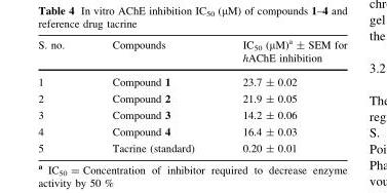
<table><thead><tr><td>S. no.</td><td>Compounds</td><td>IC<sub>50</sub> (µM)<sup>a</sup> ± SEM for hAChE inhibition</td></tr></thead><tbody><tr><td>1</td><td>Compound 1</td><td>23.7 ± 0.02</td></tr><tr><td>2</td><td>Compound 2</td><td>21.9 ± 0.05</td></tr><tr><td>3</td><td>Compound 3</td><td>14.2 ± 0.06</td></tr><tr><td>4</td><td>Compound 4</td><td>16.4 ± 0.03</td></tr><tr><td>5</td><td>Tacrine (standard)</td><td>0.20 ± 0.01</td></tr></tbody></table>